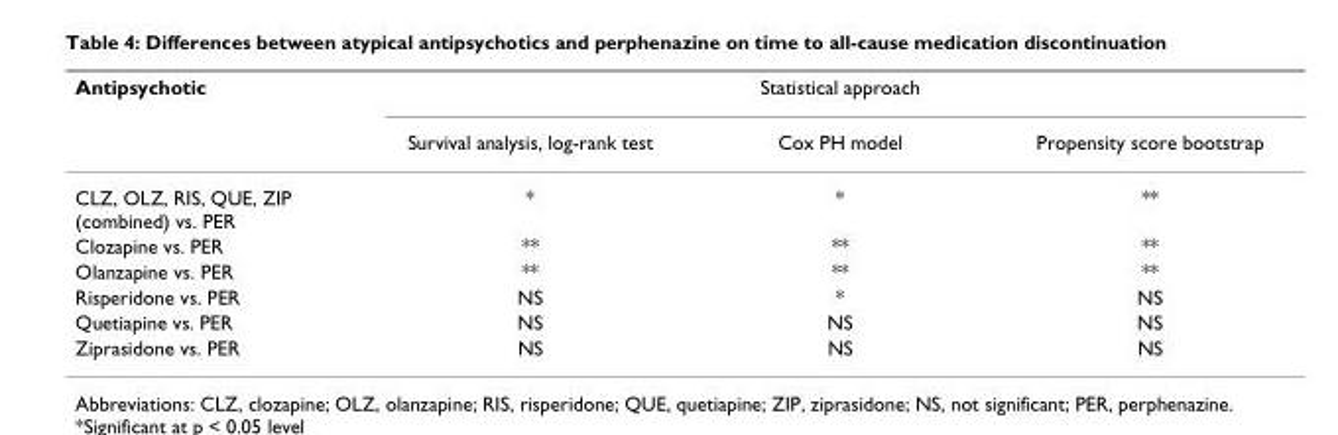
<table><thead><tr><td rowspan="2">Antipsychotic</td><td colspan="3">Statistical approach</td></tr><tr><td>Survival analysis, log-rank test</td><td>Cox PH model</td><td>Propensity score bootstrap</td></tr></thead><tbody><tr><td>CLZ, OLZ, RIS, QUE, ZIP (combined) vs. PER</td><td>*</td><td>*</td><td>**</td></tr><tr><td>Clozapine vs. PER</td><td>**</td><td>**</td><td>**</td></tr><tr><td>Olanzapine vs. PER</td><td>**</td><td>**</td><td>**</td></tr><tr><td>Risperidone vs. PER</td><td>NS</td><td>*</td><td>NS</td></tr><tr><td>Quetiapine vs. PER</td><td>NS</td><td>NS</td><td>NS</td></tr><tr><td>Ziprasidone vs. PER</td><td>NS</td><td>NS</td><td>NS</td></tr></tbody></table>